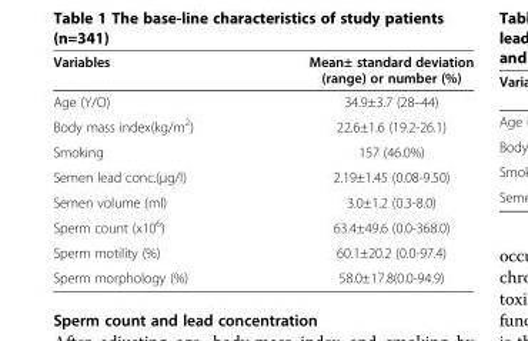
<table><thead><tr><td>Variables</td><td>Mean± standard deviation (range) or number (%)</td></tr></thead><tbody><tr><td>Age (Y/O)</td><td>34.9±3.7 (28–44)</td></tr><tr><td>Body mass index(kg/m<sup>2</sup>)</td><td>22.6±1.6 (19.2-26.1)</td></tr><tr><td>Smoking</td><td>157 (46.0%)</td></tr><tr><td>Semen lead conc.(μg/l)</td><td>2.19±1.45 (0.08-9.50)</td></tr><tr><td>Semen volume (ml)</td><td>3.0±1.2 (0.3-8.0)</td></tr><tr><td>Sperm count (x10<sup>6</sup>)</td><td>63.4±49.6 (0.0-368.0)</td></tr><tr><td>Sperm motility (%)</td><td>60.1±20.2 (0.0-97.4)</td></tr><tr><td>Sperm morphology (%)</td><td>58.0±17.8(0.0-94.9)</td></tr></tbody></table>